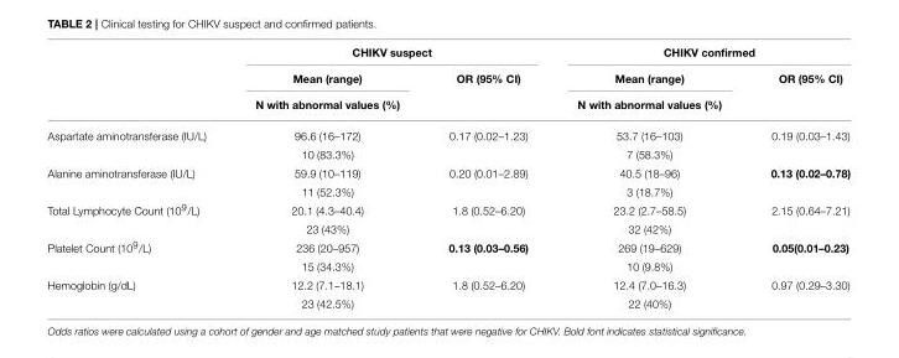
<table><thead><tr><td rowspan="3"></td><td colspan="2">CHIKV suspect</td><td colspan="2">CHIKV confirmed</td></tr><tr><td rowspan="2">Mean (range) N with abnormal values (%)</td><td rowspan="2">OR (95% CI)</td><td rowspan="2">Mean (range) N with abnormal values (%)</td><td rowspan="2">OR (95% CI)</td></tr><tr></tr></thead><tbody><tr><td rowspan="2">Aspartate aminotransferase (IU/L)</td><td>96.6 (16–172)</td><td>0.17 (0.02–1.23)</td><td>53.7 (16–103)</td><td>0.19 (0.03–1.43)</td></tr><tr><td>10 (83.3%)</td><td></td><td>7 (58.3%)</td><td></td></tr><tr><td rowspan="2">Alanine aminotransferase (IU/L)</td><td>59.9 (10–119)</td><td>0.20 (0.01–2.89)</td><td>40.5 (18–96)</td><td>0.13 (0.02–0.78)</td></tr><tr><td>11 (52.3%)</td><td></td><td>3 (18.7%)</td><td></td></tr><tr><td rowspan="2">Total Lymphocyte Count (10<sup>9</sup>/L)</td><td>20.1 (4.3–40.4)</td><td>1.8 (0.52–6.20)</td><td>23.2 (2.7–58.5)</td><td>2.15 (0.64–7.21)</td></tr><tr><td>23 (43%)</td><td></td><td>32 (42%)</td><td></td></tr><tr><td rowspan="2">Platelet Count (10<sup>9</sup>/L)</td><td>236 (20–957)</td><td>0.13 (0.03–0.56)</td><td>269 (19–629)</td><td>0.05(0.01–0.23)</td></tr><tr><td>15 (34.3%)</td><td></td><td>10 (9.8%)</td><td></td></tr><tr><td rowspan="2">Hemoglobin (g/dL)</td><td>12.2 (7.1–18.1)</td><td>1.8 (0.52–6.20)</td><td>12.4 (7.0–16.3)</td><td>0.97 (0.29–3.30)</td></tr><tr><td>23 (42.5%)</td><td></td><td>22 (40%)</td><td></td></tr></tbody></table>